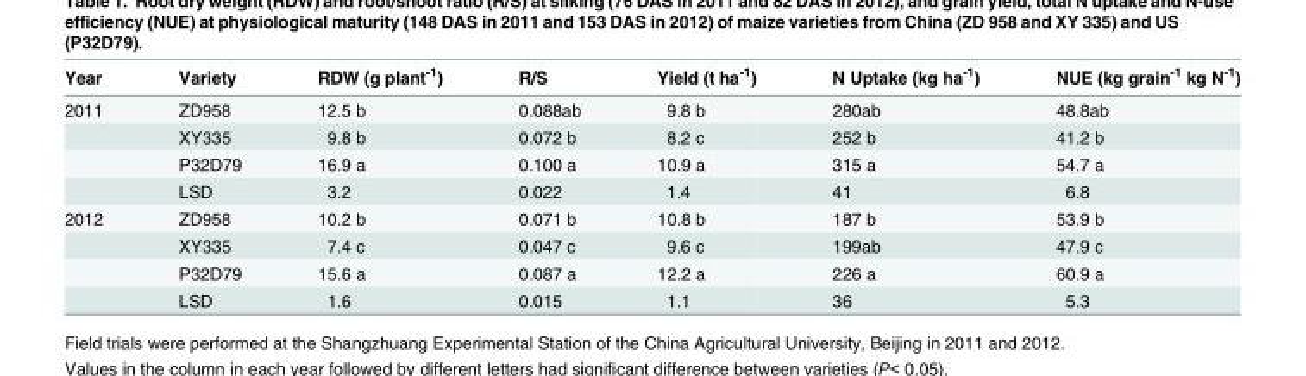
<table><thead><tr><td>Year</td><td>Variety</td><td>RDW (g plant<sup>-1</sup>)</td><td>R/S</td><td>Yield (t ha<sup>-1</sup>)</td><td>N Uptake (kg ha<sup>-1</sup>)</td><td>NUE (kg grain<sup>-1</sup> kg N<sup>-1</sup>)</td></tr></thead><tbody><tr><td rowspan="4">2011</td><td>ZD958</td><td>12.5 b</td><td>0.088ab</td><td>9.8 b</td><td>280ab</td><td>48.8ab</td></tr><tr><td>XY335</td><td>9.8 b</td><td>0.072 b</td><td>8.2 c</td><td>252 b</td><td>41.2 b</td></tr><tr><td>P32D79</td><td>16.9 a</td><td>0.100 a</td><td>10.9 a</td><td>315 a</td><td>54.7 a</td></tr><tr><td>LSD</td><td>3.2</td><td>0.022</td><td>1.4</td><td>41</td><td>6.8</td></tr><tr><td rowspan="4">2012</td><td>ZD958</td><td>10.2 b</td><td>0.071 b</td><td>10.8 b</td><td>187 b</td><td>53.9 b</td></tr><tr><td>XY335</td><td>7.4 c</td><td>0.047 c</td><td>9.6 c</td><td>199ab</td><td>47.9 c</td></tr><tr><td>P32D79</td><td>15.6 a</td><td>0.087 a</td><td>12.2 a</td><td>226 a</td><td>60.9 a</td></tr><tr><td>LSD</td><td>1.6</td><td>0.015</td><td>1.1</td><td>36</td><td>5.3</td></tr></tbody></table>